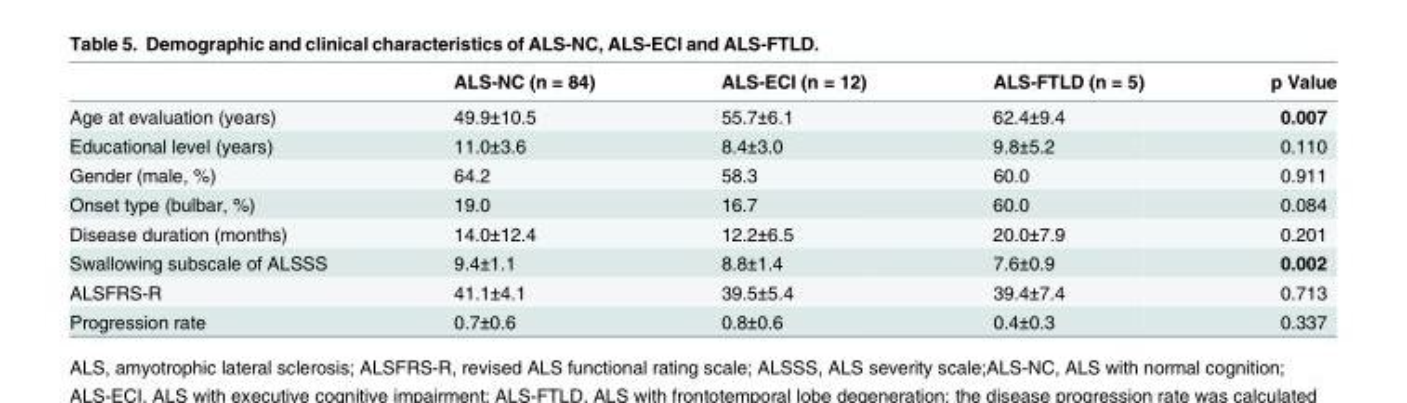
<table><thead><tr><td></td><td>ALS-NC (n = 84)</td><td>ALS-ECI (n = 12)</td><td>ALS-FTLD (n = 5)</td><td>p Value</td></tr></thead><tbody><tr><td>Age at evaluation (years)</td><td>49.9±10.5</td><td>55.7±6.1</td><td>62.4±9.4</td><td>0.007</td></tr><tr><td>Educational level (years)</td><td>11.0±3.6</td><td>8.4±3.0</td><td>9.8±5.2</td><td>0.110</td></tr><tr><td>Gender (male, %)</td><td>64.2</td><td>58.3</td><td>60.0</td><td>0.911</td></tr><tr><td>Onset type (bulbar, %)</td><td>19.0</td><td>16.7</td><td>60.0</td><td>0.084</td></tr><tr><td>Disease duration (months)</td><td>14.0±12.4</td><td>12.2±6.5</td><td>20.0±7.9</td><td>0.201</td></tr><tr><td>Swallowing subscale of ALSSS</td><td>9.4±1.1</td><td>8.8±1.4</td><td>7.6±0.9</td><td>0.002</td></tr><tr><td>ALSFRS-R</td><td>41.1±4.1</td><td>39.5±5.4</td><td>39.4±7.4</td><td>0.713</td></tr><tr><td>Progression rate</td><td>0.7±0.6</td><td>0.8±0.6</td><td>0.4±0.3</td><td>0.337</td></tr></tbody></table>